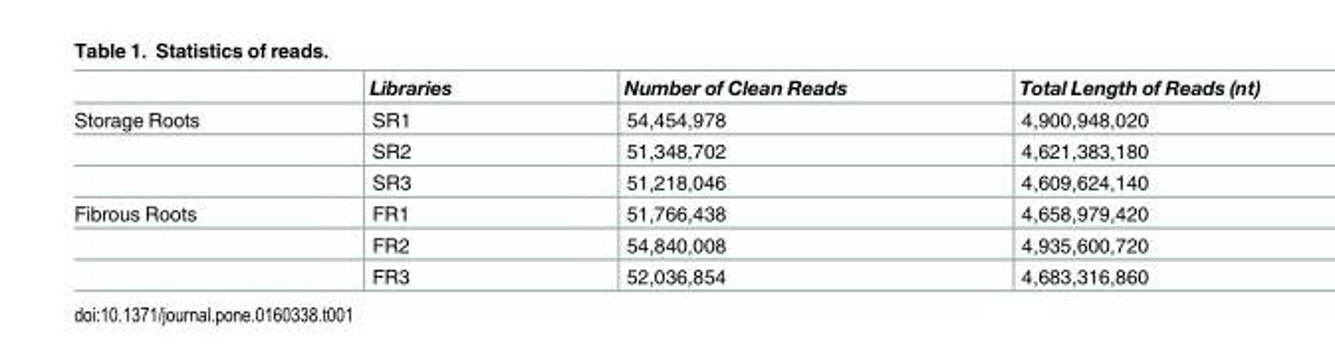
<table><thead><tr><td></td><td>Libraries</td><td>Number of Clean Reads</td><td>Total Length of Reads (nt)</td></tr></thead><tbody><tr><td rowspan="3">Storage Roots</td><td>SR1</td><td>54,454,978</td><td>4,900,948,020</td></tr><tr><td>SR2</td><td>51,348,702</td><td>4,621,383,180</td></tr><tr><td>SR3</td><td>51,218,046</td><td>4,609,624,140</td></tr><tr><td rowspan="3">Fibrous Roots</td><td>FR1</td><td>51,766,438</td><td>4,658,979,420</td></tr><tr><td>FR2</td><td>54,840,008</td><td>4,935,600,720</td></tr><tr><td>FR3</td><td>52,036,854</td><td>4,683,316,860</td></tr></tbody></table>